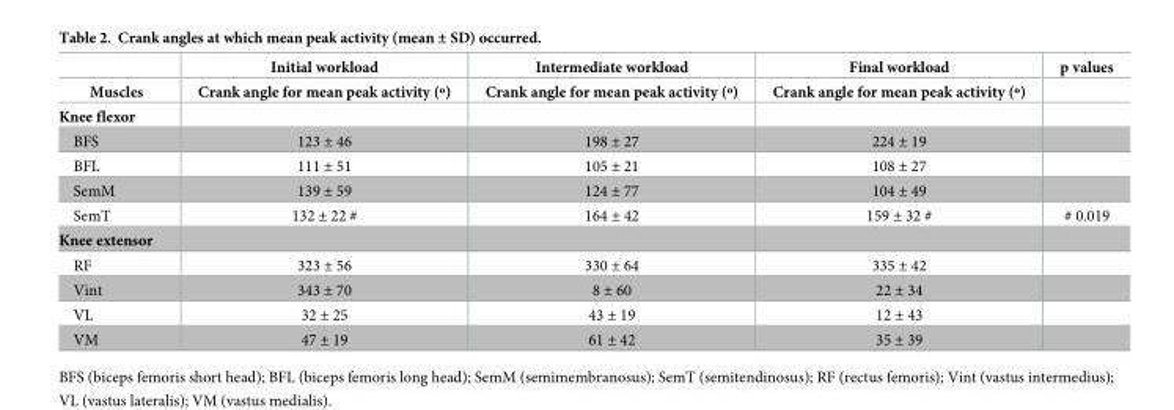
<table><thead><tr><td rowspan="2">Muscles</td><td rowspan="2">Initial workload Crank angle for mean peak activity (º)</td><td rowspan="2">Intermediate workload Crank angle for mean peak activity (º)</td><td rowspan="2">Final workload Crank angle for mean peak activity (º)</td><td rowspan="2">p values</td></tr><tr></tr></thead><tbody><tr><td colspan="5">Knee flexor</td></tr><tr><td>BFS</td><td>123 ± 46</td><td>198 ± 27</td><td>224 ± 19</td><td></td></tr><tr><td>BFL</td><td>111 ± 51</td><td>105 ± 21</td><td>108 ± 27</td><td></td></tr><tr><td>SemM</td><td>139 ± 59</td><td>124 ± 77</td><td>104 ± 49</td><td></td></tr><tr><td>SemT</td><td>132 ± 22 #</td><td>164 ± 42</td><td>159 ± 32 #</td><td># 0.019</td></tr><tr><td colspan="5">Knee extensor</td></tr><tr><td>RF</td><td>323 ± 56</td><td>330 ± 64</td><td>335 ± 42</td><td></td></tr><tr><td>Vint</td><td>343 ± 70</td><td>8 ± 60</td><td>22 ± 34</td><td></td></tr><tr><td>VL</td><td>32 ± 25</td><td>43 ± 19</td><td>12 ± 43</td><td></td></tr><tr><td>VM</td><td>47 ± 19</td><td>61 ± 42</td><td>35 ± 39</td><td></td></tr></tbody></table>